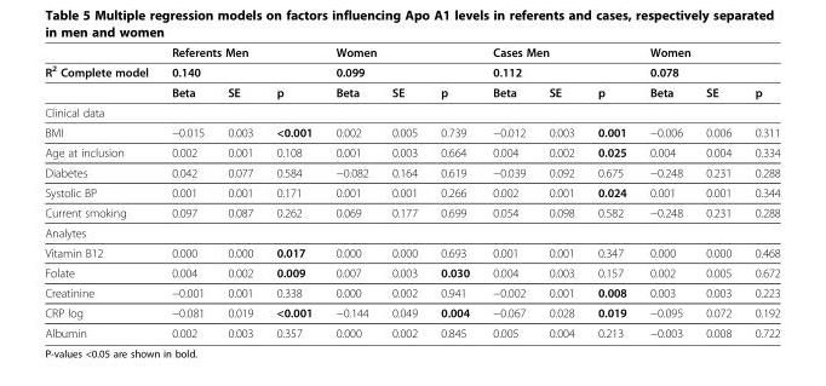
<table><thead><tr><td rowspan="3">R<sup>2</sup> Complete model</td><td rowspan="2" colspan="3">Referents Men 0.140</td><td rowspan="2" colspan="3">Women 0.099</td><td rowspan="2" colspan="3">Cases Men 0.112</td><td rowspan="2" colspan="3">Women 0.078</td></tr><tr></tr><tr><td>Beta</td><td>SE</td><td>p</td><td>Beta</td><td>SE</td><td>p</td><td>Beta</td><td>SE</td><td>p</td><td>Beta</td><td>SE</td><td>p</td></tr></thead><tbody><tr><td colspan="13">Clinical data</td></tr><tr><td>BMI</td><td>−0.015</td><td>0.003</td><td>&lt;0.001</td><td>0.002</td><td>0.005</td><td>0.739</td><td>−0.012</td><td>0.003</td><td>0.001</td><td>−0.006</td><td>0.006</td><td>0.311</td></tr><tr><td>Age at inclusion</td><td>0.002</td><td>0.001</td><td>0.108</td><td>0.001</td><td>0.003</td><td>0.664</td><td>0.004</td><td>0.002</td><td>0.025</td><td>0.004</td><td>0.004</td><td>0.334</td></tr><tr><td>Diabetes</td><td>0.042</td><td>0.077</td><td>0.584</td><td>−0.082</td><td>0.164</td><td>0.619</td><td>−0.039</td><td>0.092</td><td>0.675</td><td>−0.248</td><td>0.231</td><td>0.288</td></tr><tr><td>Systolic BP</td><td>0.001</td><td>0.001</td><td>0.171</td><td>0.001</td><td>0.001</td><td>0.266</td><td>0.002</td><td>0.001</td><td>0.024</td><td>0.001</td><td>0.001</td><td>0.344</td></tr><tr><td>Current smoking</td><td>0.097</td><td>0.087</td><td>0.262</td><td>0.069</td><td>0.177</td><td>0.699</td><td>0.054</td><td>0.098</td><td>0.582</td><td>−0.248</td><td>0.231</td><td>0.288</td></tr><tr><td colspan="13">Analytes</td></tr><tr><td>Vitamin B12</td><td>0.000</td><td>0.000</td><td>0.017</td><td>0.000</td><td>0.000</td><td>0.693</td><td>0.001</td><td>0.001</td><td>0.347</td><td>0.000</td><td>0.000</td><td>0.468</td></tr><tr><td>Folate</td><td>0.004</td><td>0.002</td><td>0.009</td><td>0.007</td><td>0.003</td><td>0.030</td><td>0.004</td><td>0.003</td><td>0.157</td><td>0.002</td><td>0.005</td><td>0.672</td></tr><tr><td>Creatinine</td><td>−0.001</td><td>0.001</td><td>0.338</td><td>0.000</td><td>0.002</td><td>0.941</td><td>−0.002</td><td>0.001</td><td>0.008</td><td>0.003</td><td>0.003</td><td>0.223</td></tr><tr><td>CRP log</td><td>−0.081</td><td>0.019</td><td>&lt;0.001</td><td>−0.144</td><td>0.049</td><td>0.004</td><td>−0.067</td><td>0.028</td><td>0.019</td><td>−0.095</td><td>0.072</td><td>0.192</td></tr><tr><td>Albumin</td><td>0.002</td><td>0.003</td><td>0.357</td><td>0.000</td><td>0.002</td><td>0.845</td><td>0.005</td><td>0.004</td><td>0.213</td><td>−0.003</td><td>0.008</td><td>0.722</td></tr></tbody></table>